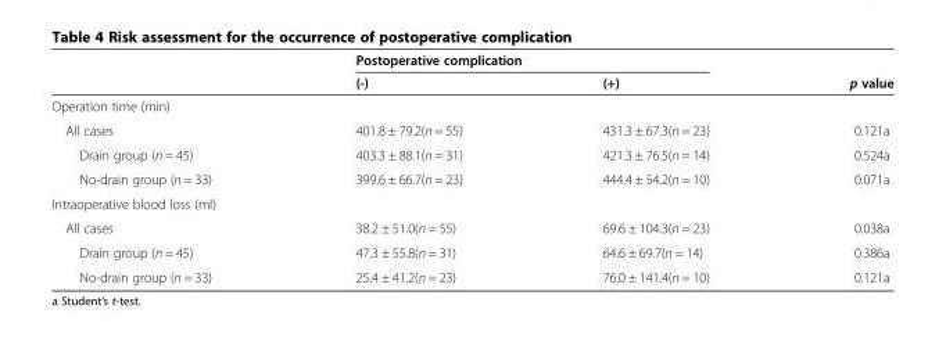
<table><thead><tr><td rowspan="2"></td><td colspan="2">Postoperative complication</td><td rowspan="2">p value</td></tr><tr><td>(-)</td><td>(+)</td></tr></thead><tbody><tr><td colspan="4">Operation time (min)</td></tr><tr><td>All cases</td><td>401.8 ± 79.2(n = 55)</td><td>431.3 ± 67.3(n = 23)</td><td>0.121a</td></tr><tr><td>Drain group (n = 45)</td><td>403.3 ± 88.1(n = 31)</td><td>421.3 ± 76.5(n = 14)</td><td>0.524a</td></tr><tr><td>No-drain group (n = 33)</td><td>399.6 ± 66.7(n = 23)</td><td>444.4 ± 54.2(n = 10)</td><td>0.071a</td></tr><tr><td colspan="4">Intraoperative blood loss (ml)</td></tr><tr><td>All cases</td><td>38.2 ± 51.0(n = 55)</td><td>69.6 ± 104.3(n = 23)</td><td>0.038a</td></tr><tr><td>Drain group (n = 45)</td><td>47.3 ± 55.8(n = 31)</td><td>64.6 ± 69.7(n = 14)</td><td>0.386a</td></tr><tr><td>No-drain group (n = 33)</td><td>25.4 ± 41.2(n = 23)</td><td>76.0 ± 141.4(n = 10)</td><td>0.121a</td></tr></tbody></table>